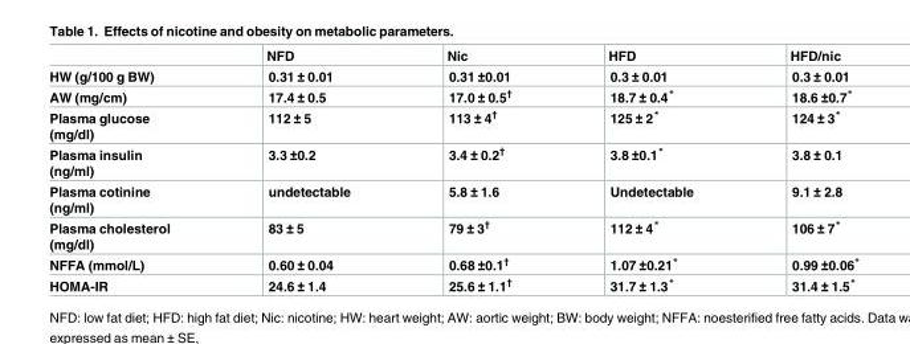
<table><thead><tr><td></td><td>NFD</td><td>Nic</td><td>HFD</td><td>HFD/nic</td></tr></thead><tbody><tr><td>HW (g/100 g BW)</td><td>0.31 ± 0.01</td><td>0.31 ±0.01</td><td>0.3 ± 0.01</td><td>0.3 ± 0.01</td></tr><tr><td>AW (mg/cm)</td><td>17.4 ± 0.5</td><td>17.0 ± 0.5<sup>†</sup></td><td>18.7 ± 0.4*</td><td>18.6 ±0.7*</td></tr><tr><td>Plasma glucose (mg/dl)</td><td>112 ± 5</td><td>113 ± 4<sup>†</sup></td><td>125 ± 2*</td><td>124 ± 3*</td></tr><tr><td>Plasma insulin (ng/ml)</td><td>3.3 ±0.2</td><td>3.4 ± 0.2<sup>†</sup></td><td>3.8 ±0.1*</td><td>3.8 ± 0.1</td></tr><tr><td>Plasma cotinine (ng/ml)</td><td>undetectable</td><td>5.8 ± 1.6</td><td>Undetectable</td><td>9.1 ± 2.8</td></tr><tr><td>Plasma cholesterol (mg/dl)</td><td>83 ± 5</td><td>79 ± 3<sup>†</sup></td><td>112 ± 4*</td><td>106 ± 7*</td></tr><tr><td>NFFA (mmol/L)</td><td>0.60 ± 0.04</td><td>0.68 ±0.1<sup>†</sup></td><td>1.07 ±0.21*</td><td>0.99 ±0.06*</td></tr><tr><td>HOMA-IR</td><td>24.6 ± 1.4</td><td>25.6 ± 1.1<sup>†</sup></td><td>31.7 ± 1.3*</td><td>31.4 ± 1.5*</td></tr></tbody></table>